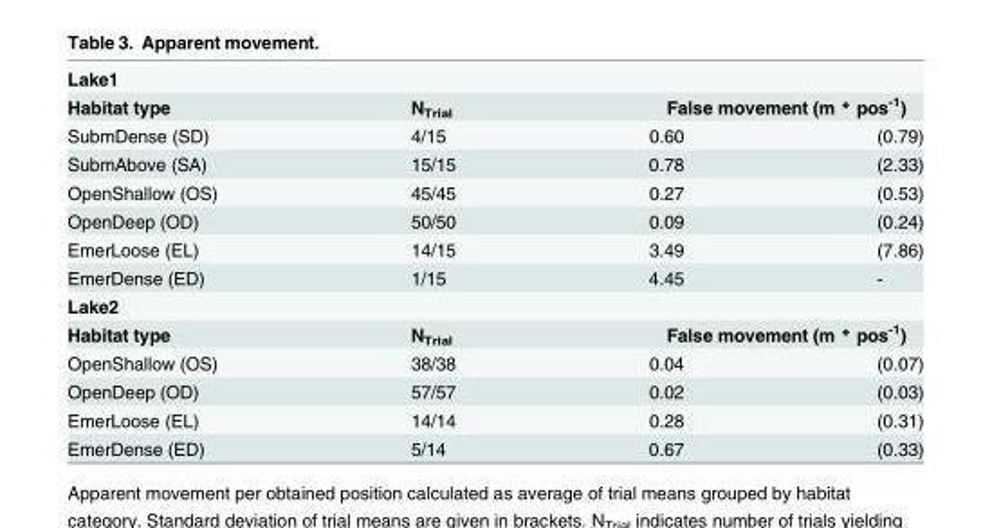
<table><tbody><tr><td colspan="4">Lake1</td></tr><tr><td>Habitat type</td><td>N<sub>Trial</sub></td><td colspan="2">False movement (m * pos<sup>-1</sup>)</td></tr><tr><td>SubmDense (SD)</td><td>4/15</td><td>0.60</td><td>(0.79)</td></tr><tr><td>SubmAbove (SA)</td><td>15/15</td><td>0.78</td><td>(2.33)</td></tr><tr><td>OpenShallow (OS)</td><td>45/45</td><td>0.27</td><td>(0.53)</td></tr><tr><td>OpenDeep (OD)</td><td>50/50</td><td>0.09</td><td>(0.24)</td></tr><tr><td>EmerLoose (EL)</td><td>14/15</td><td>3.49</td><td>(7.86)</td></tr><tr><td>EmerDense (ED)</td><td>1/15</td><td>4.45</td><td>-</td></tr><tr><td colspan="4">Lake2</td></tr><tr><td>Habitat type</td><td>N<sub>Trial</sub></td><td colspan="2">False movement (m * pos<sup>-1</sup>)</td></tr><tr><td>OpenShallow (OS)</td><td>38/38</td><td>0.04</td><td>(0.07)</td></tr><tr><td>OpenDeep (OD)</td><td>57/57</td><td>0.02</td><td>(0.03)</td></tr><tr><td>EmerLoose (EL)</td><td>14/14</td><td>0.28</td><td>(0.31)</td></tr><tr><td>EmerDense (ED)</td><td>5/14</td><td>0.67</td><td>(0.33)</td></tr></tbody></table>